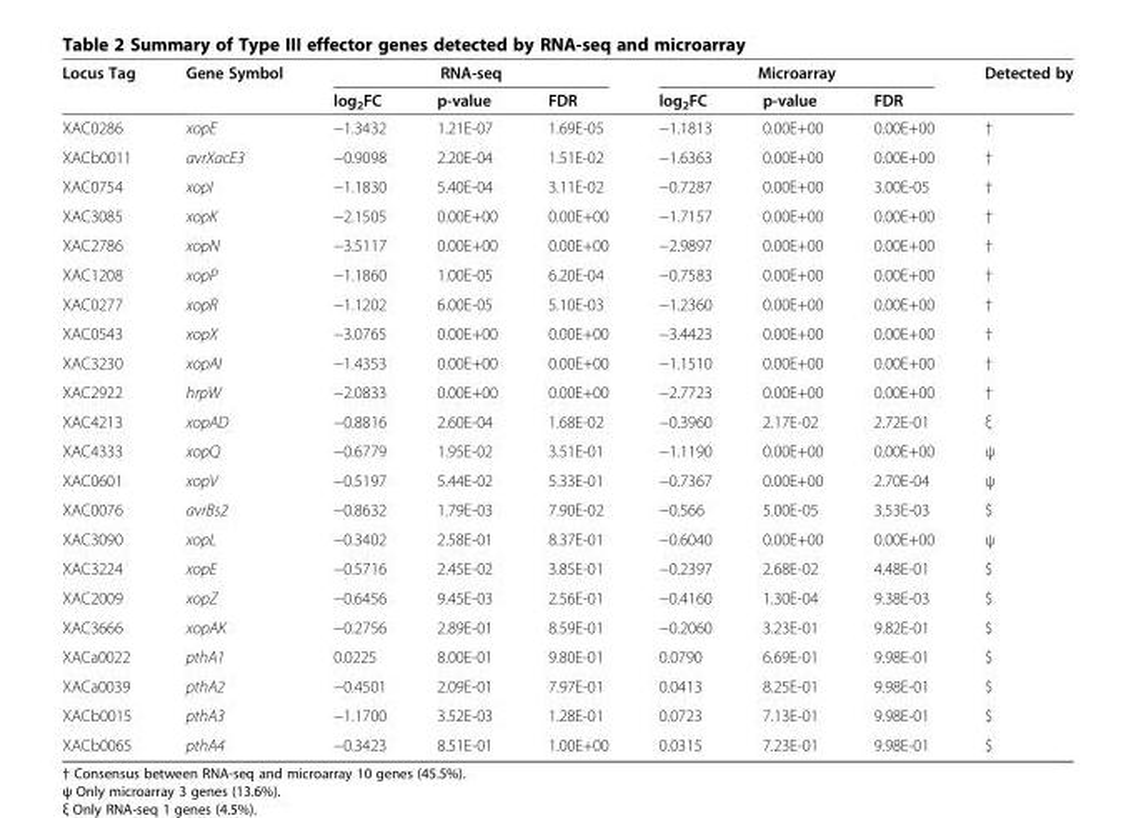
<table><thead><tr><td rowspan="2">Locus Tag</td><td rowspan="2">Gene Symbol</td><td colspan="3">RNA-seq</td><td colspan="3">Microarray</td><td rowspan="2">Detected by</td></tr><tr><td>log<sub>2</sub>FC</td><td>p-value</td><td>FDR</td><td>log<sub>2</sub>FC</td><td>p-value</td><td>FDR</td></tr></thead><tbody><tr><td>XAC0286</td><td>xopE</td><td>−1.3432</td><td>1.21E-07</td><td>1.69E-05</td><td>−1.1813</td><td>0.00E+00</td><td>0.00E+00</td><td>†</td></tr><tr><td>XACb0011</td><td>avrXacE3</td><td>−0.9098</td><td>2.20E-04</td><td>1.51E-02</td><td>−1.6363</td><td>0.00E+00</td><td>0.00E+00</td><td>†</td></tr><tr><td>XAC0754</td><td>xopI</td><td>−1.1830</td><td>5.40E-04</td><td>3.11E-02</td><td>−0.7287</td><td>0.00E+00</td><td>3.00E-05</td><td>†</td></tr><tr><td>XAC3085</td><td>xopK</td><td>−2.1505</td><td>0.00E+00</td><td>0.00E+00</td><td>−1.7157</td><td>0.00E+00</td><td>0.00E+00</td><td>†</td></tr><tr><td>XAC2786</td><td>xopN</td><td>−3.5117</td><td>0.00E+00</td><td>0.00E+00</td><td>−2.9897</td><td>0.00E+00</td><td>0.00E+00</td><td>†</td></tr><tr><td>XAC1208</td><td>xopP</td><td>−1.1860</td><td>1.00E-05</td><td>6.20E-04</td><td>−0.7583</td><td>0.00E+00</td><td>0.00E+00</td><td>†</td></tr><tr><td>XAC0277</td><td>xopR</td><td>−1.1202</td><td>6.00E-05</td><td>5.10E-03</td><td>−1.2360</td><td>0.00E+00</td><td>0.00E+00</td><td>†</td></tr><tr><td>XAC0543</td><td>xopX</td><td>−3.0765</td><td>0.00E+00</td><td>0.00E+00</td><td>−3.4423</td><td>0.00E+00</td><td>0.00E+00</td><td>†</td></tr><tr><td>XAC3230</td><td>xopAI</td><td>−1.4353</td><td>0.00E+00</td><td>0.00E+00</td><td>−1.1510</td><td>0.00E+00</td><td>0.00E+00</td><td>†</td></tr><tr><td>XAC2922</td><td>hrpW</td><td>−2.0833</td><td>0.00E+00</td><td>0.00E+00</td><td>−2.7723</td><td>0.00E+00</td><td>0.00E+00</td><td>†</td></tr><tr><td>XAC4213</td><td>xopAD</td><td>−0.8816</td><td>2.60E-04</td><td>1.68E-02</td><td>−0.3960</td><td>2.17E-02</td><td>2.72E-01</td><td>ξ</td></tr><tr><td>XAC4333</td><td>xopQ</td><td>−0.6779</td><td>1.95E-02</td><td>3.51E-01</td><td>−1.1190</td><td>0.00E+00</td><td>0.00E+00</td><td>ψ</td></tr><tr><td>XAC0601</td><td>xopV</td><td>−0.5197</td><td>5.44E-02</td><td>5.33E-01</td><td>−0.7367</td><td>0.00E+00</td><td>2.70E-04</td><td>ψ</td></tr><tr><td>XAC0076</td><td>avrBs2</td><td>−0.8632</td><td>1.79E-03</td><td>7.90E-02</td><td>−0.566</td><td>5.00E-05</td><td>3.53E-03</td><td>$</td></tr><tr><td>XAC3090</td><td>xopL</td><td>−0.3402</td><td>2.58E-01</td><td>8.37E-01</td><td>−0.6040</td><td>0.00E+00</td><td>0.00E+00</td><td>ψ</td></tr><tr><td>XAC3224</td><td>xopE</td><td>−0.5716</td><td>2.45E-02</td><td>3.85E-01</td><td>−0.2397</td><td>2.68E-02</td><td>4.48E-01</td><td>$</td></tr><tr><td>XAC2009</td><td>xopZ</td><td>−0.6456</td><td>9.45E-03</td><td>2.56E-01</td><td>−0.4160</td><td>1.30E-04</td><td>9.38E-03</td><td>$</td></tr><tr><td>XAC3666</td><td>xopAK</td><td>−0.2756</td><td>2.89E-01</td><td>8.59E-01</td><td>−0.2060</td><td>3.23E-01</td><td>9.82E-01</td><td>$</td></tr><tr><td>XACa0022</td><td>pthA1</td><td>0.0225</td><td>8.00E-01</td><td>9.80E-01</td><td>0.0790</td><td>6.69E-01</td><td>9.98E-01</td><td>$</td></tr><tr><td>XACa0039</td><td>pthA2</td><td>−0.4501</td><td>2.09E-01</td><td>7.97E-01</td><td>0.0413</td><td>8.25E-01</td><td>9.98E-01</td><td>$</td></tr><tr><td>XACb0015</td><td>pthA3</td><td>−1.1700</td><td>3.52E-03</td><td>1.28E-01</td><td>0.0723</td><td>7.13E-01</td><td>9.98E-01</td><td>$</td></tr><tr><td>XACb0065</td><td>pthA4</td><td>−0.3423</td><td>8.51E-01</td><td>1.00E+00</td><td>0.0315</td><td>7.23E-01</td><td>9.98E-01</td><td>$</td></tr></tbody></table>